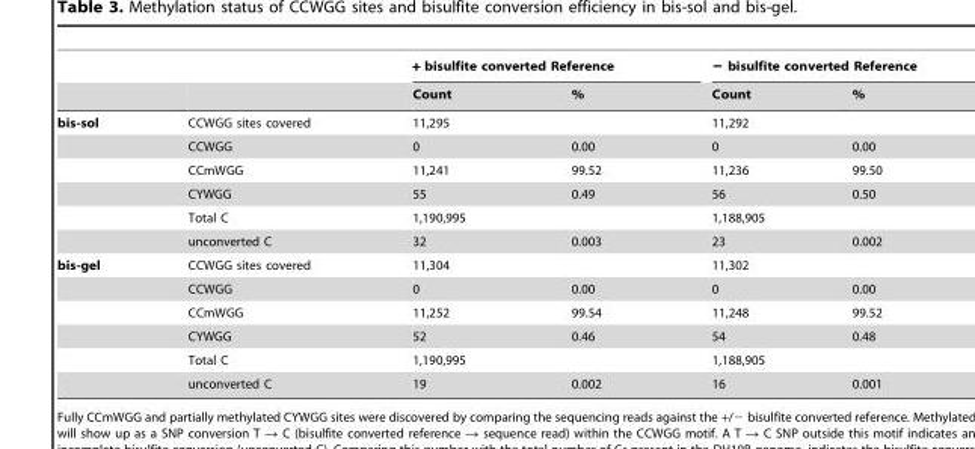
<table><thead><tr><td rowspan="2"></td><td rowspan="2"></td><td colspan="2">+ bisulfite converted Reference</td><td colspan="2">− bisulfite converted Reference</td></tr><tr><td>Count</td><td>%</td><td>Count</td><td>%</td></tr></thead><tbody><tr><td rowspan="6">bis-sol</td><td>CCWGG sites covered</td><td>11,295</td><td></td><td>11,292</td><td></td></tr><tr><td>CCWGG</td><td>0</td><td>0.00</td><td>0</td><td>0.00</td></tr><tr><td>CCmWGG</td><td>11,241</td><td>99.52</td><td>11,236</td><td>99.50</td></tr><tr><td>CYWGG</td><td>55</td><td>0.49</td><td>56</td><td>0.50</td></tr><tr><td>Total C</td><td>1,190,995</td><td></td><td>1,188,905</td><td></td></tr><tr><td>unconverted C</td><td>32</td><td>0.003</td><td>23</td><td>0.002</td></tr><tr><td rowspan="6">bis-gel</td><td>CCWGG sites covered</td><td>11,304</td><td></td><td>11,302</td><td></td></tr><tr><td>CCWGG</td><td>0</td><td>0.00</td><td>0</td><td>0.00</td></tr><tr><td>CCmWGG</td><td>11,252</td><td>99.54</td><td>11,248</td><td>99.52</td></tr><tr><td>CYWGG</td><td>52</td><td>0.46</td><td>54</td><td>0.48</td></tr><tr><td>Total C</td><td>1,190,995</td><td></td><td>1,188,905</td><td></td></tr><tr><td>unconverted C</td><td>19</td><td>0.002</td><td>16</td><td>0.001</td></tr></tbody></table>